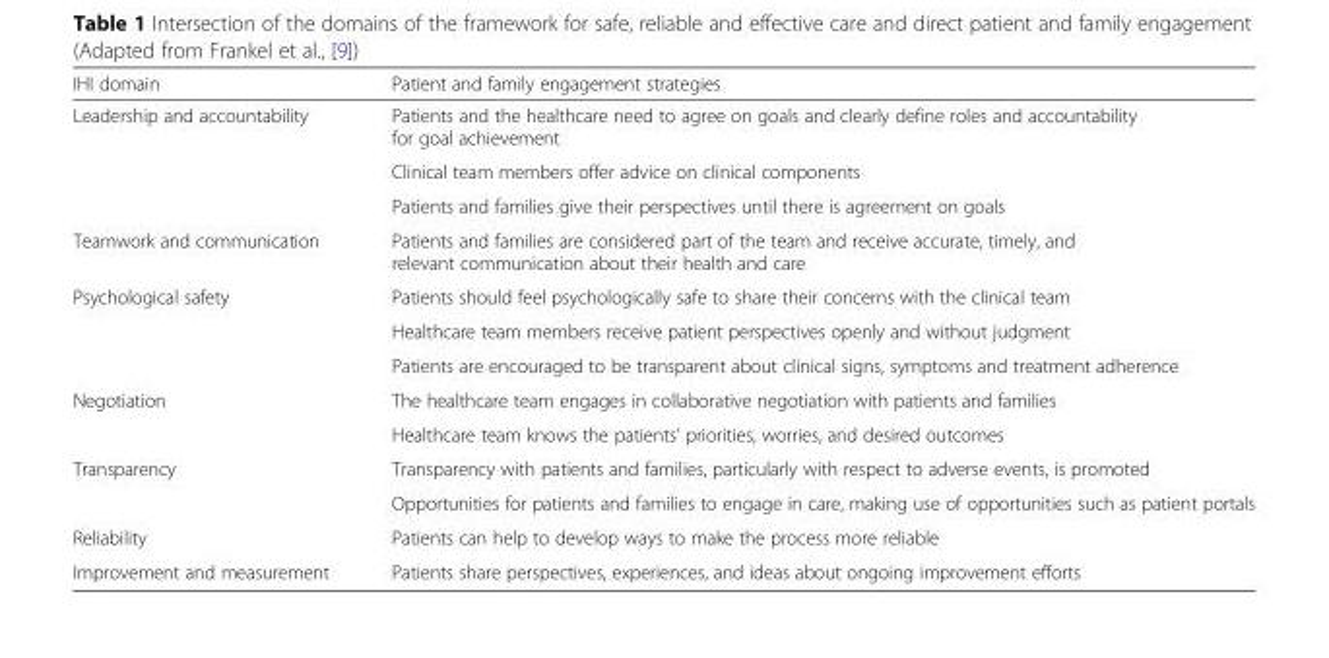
<table><thead><tr><td>IHI domain</td><td>Patient and family engagement strategies</td></tr></thead><tbody><tr><td rowspan="3">Leadership and accountability</td><td>Patients and the healthcare need to agree on goals and clearly define roles and accountability for goal achievement</td></tr><tr><td>Clinical team members offer advice on clinical components</td></tr><tr><td>Patients and families give their perspectives until there is agreement on goals</td></tr><tr><td>Teamwork and communication</td><td>Patients and families are considered part of the team and receive accurate, timely, and relevant communication about their health and care</td></tr><tr><td rowspan="3">Psychological safety</td><td>Patients should feel psychologically safe to share their concerns with the clinical team</td></tr><tr><td>Healthcare team members receive patient perspectives openly and without judgment</td></tr><tr><td>Patients are encouraged to be transparent about clinical signs, symptoms and treatment adherence</td></tr><tr><td rowspan="2">Negotiation</td><td>The healthcare team engages in collaborative negotiation with patients and families</td></tr><tr><td>Healthcare team knows the patients’ priorities, worries, and desired outcomes</td></tr><tr><td rowspan="2">Transparency</td><td>Transparency with patients and families, particularly with respect to adverse events, is promoted</td></tr><tr><td>Opportunities for patients and families to engage in care, making use of opportunities such as patient portals</td></tr><tr><td>Reliability</td><td>Patients can help to develop ways to make the process more reliable</td></tr><tr><td>Improvement and measurement</td><td>Patients share perspectives, experiences, and ideas about ongoing improvement efforts</td></tr></tbody></table>